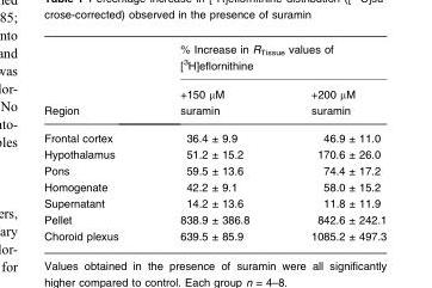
<table><thead><tr><td rowspan="2">Region</td><td colspan="2">% Increase in R<sub>Tissue</sub> values of [<sup>3</sup>H]eflornithine</td></tr><tr><td>+150 μM suramin</td><td>+200 μM suramin</td></tr></thead><tbody><tr><td>Frontal cortex</td><td>36.4 ± 9.9</td><td>46.9 ± 11.0</td></tr><tr><td>Hypothalamus</td><td>51.2 ± 15.2</td><td>170.6 ± 26.0</td></tr><tr><td>Pons</td><td>59.5 ± 13.6</td><td>74.4 ± 17.2</td></tr><tr><td>Homogenate</td><td>42.2 ± 9.1</td><td>58.0 ± 15.2</td></tr><tr><td>Supernatant</td><td>14.2 ± 13.6</td><td>11.8 ± 11.9</td></tr><tr><td>Pellet</td><td>838.9 ± 386.8</td><td>842.6 ± 242.1</td></tr><tr><td>Choroid plexus</td><td>639.5 ± 85.9</td><td>1085.2 ± 497.3</td></tr></tbody></table>